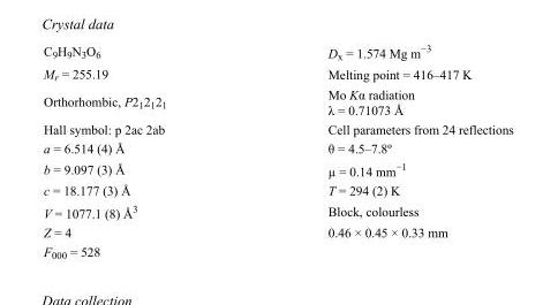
<table><tbody><tr><td>C<sub>9</sub>H<sub>9</sub>N<sub>3</sub>O<sub>6</sub></td><td>D<sub>x</sub> = 1.574 Mg m<sup>−3</sup></td></tr><tr><td>M<sub>r</sub> = 255.19</td><td>Melting point = 416–417 K</td></tr><tr><td>Orthorhombic, P2<sub>1</sub>2<sub>1</sub>2<sub>1</sub></td><td>Mo Kα radiation λ = 0.71073 Å</td></tr><tr><td>Hall symbol: p 2ac 2ab</td><td>Cell parameters from 24 reflections</td></tr><tr><td>a = 6.514 (4) Å</td><td>θ = 4.5–7.8º</td></tr><tr><td>b = 9.097 (3) Å</td><td>µ = 0.14 mm<sup>−1</sup></td></tr><tr><td>c = 18.177 (3) Å</td><td>T = 294 (2) K</td></tr><tr><td>V = 1077.1 (8) Å<sup>3</sup></td><td>Block, colourless</td></tr><tr><td>Z = 4</td><td>0.46 × 0.45 × 0.33 mm</td></tr><tr><td>F<sub>000</sub> = 528</td><td></td></tr></tbody></table>